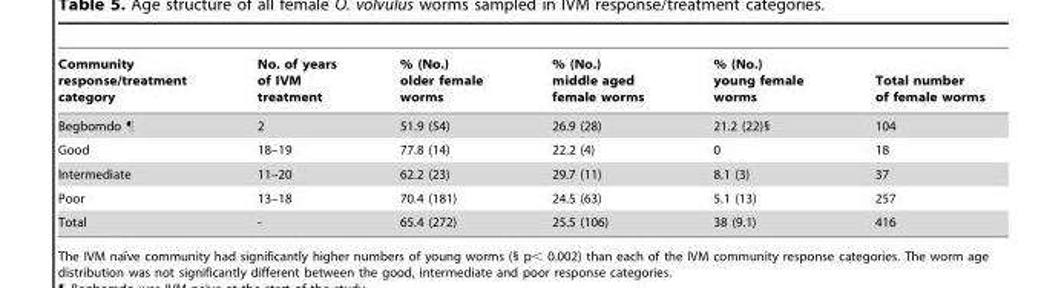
<table><thead><tr><td>Community response/treatment category</td><td>No. of years of IVM treatment</td><td>% (No.) older female worms</td><td>% (No.) middle aged female worms</td><td>% (No.) young female worms</td><td>Total number of female worms</td></tr></thead><tbody><tr><td>Begbomdo ¶</td><td>2</td><td>51.9 (54)</td><td>26.9 (28)</td><td>21.2 (22)§</td><td>104</td></tr><tr><td>Good</td><td>18–19</td><td>77.8 (14)</td><td>22.2 (4)</td><td>0</td><td>18</td></tr><tr><td>Intermediate</td><td>11–20</td><td>62.2 (23)</td><td>29.7 (11)</td><td>8.1 (3)</td><td>37</td></tr><tr><td>Poor</td><td>13–18</td><td>70.4 (181)</td><td>24.5 (63)</td><td>5.1 (13)</td><td>257</td></tr><tr><td>Total</td><td>-</td><td>65.4 (272)</td><td>25.5 (106)</td><td>38 (9.1)</td><td>416</td></tr></tbody></table>